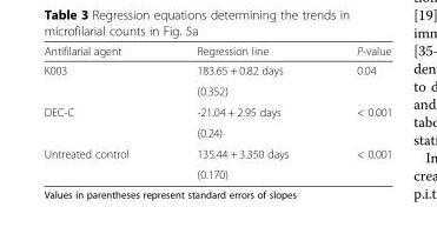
<table><thead><tr><td>Antifilarial agent</td><td>Regression line</td><td>P-value</td></tr></thead><tbody><tr><td rowspan="2">K003</td><td>183.65 + 0.82 days</td><td>0.04</td></tr><tr><td>(0.352)</td><td></td></tr><tr><td rowspan="2">DEC-C</td><td>-21.04 + 2.95 days</td><td>&lt; 0.001</td></tr><tr><td>(0.24)</td><td></td></tr><tr><td rowspan="2">Untreated control</td><td>135.44 + 3.350 days</td><td>&lt; 0.001</td></tr><tr><td>(0.170)</td><td></td></tr></tbody></table>